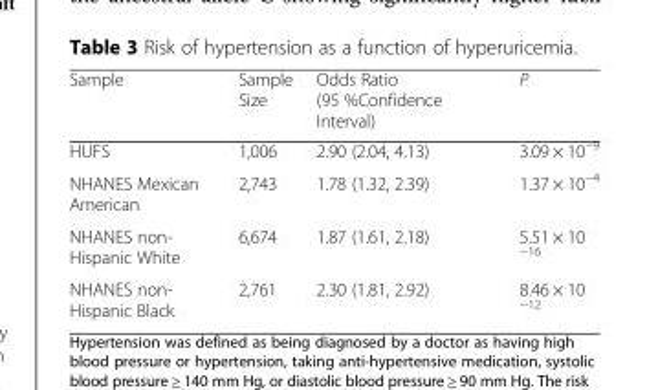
<table><thead><tr><td>Sample</td><td>Sample Size</td><td>Odds Ratio (95 %Confidence Interval)</td><td>P</td></tr></thead><tbody><tr><td>HUFS</td><td>1,006</td><td>2.90 (2.04, 4.13)</td><td>3.09 × 10<sup>−9</sup></td></tr><tr><td>NHANES Mexican American</td><td>2,743</td><td>1.78 (1.32, 2.39)</td><td>1.37 × 10<sup>−4</sup></td></tr><tr><td>NHANES non- Hispanic White</td><td>6,674</td><td>1.87 (1.61, 2.18)</td><td>5.51 × 10 <sup>−16</sup></td></tr><tr><td>NHANES non- Hispanic Black</td><td>2,761</td><td>2.30 (1.81, 2.92)</td><td>8.46 × 10 <sup>−12</sup></td></tr></tbody></table>